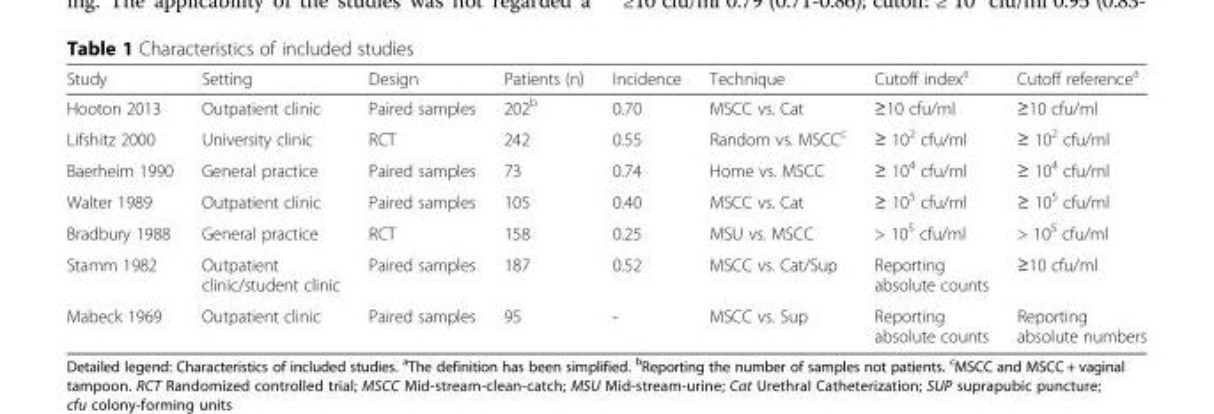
<table><thead><tr><td>Study</td><td>Setting</td><td>Design</td><td>Patients (n)</td><td>Incidence</td><td>Technique</td><td>Cutoff index<sup>a</sup></td><td>Cutoff reference<sup>a</sup></td></tr></thead><tbody><tr><td>Hooton 2013</td><td>Outpatient clinic</td><td>Paired samples</td><td>202<sup>b</sup></td><td>0.70</td><td>MSCC vs. Cat</td><td>≥10 cfu/ml</td><td>≥10 cfu/ml</td></tr><tr><td>Lifshitz 2000</td><td>University clinic</td><td>RCT</td><td>242</td><td>0.55</td><td>Random vs. MSCC<sup>c</sup></td><td>≥ 10<sup>2</sup> cfu/ml</td><td>≥ 10<sup>2</sup> cfu/ml</td></tr><tr><td>Baerheim 1990</td><td>General practice</td><td>Paired samples</td><td>73</td><td>0.74</td><td>Home vs. MSCC</td><td>≥ 10<sup>4</sup> cfu/ml</td><td>≥ 10<sup>4</sup> cfu/ml</td></tr><tr><td>Walter 1989</td><td>Outpatient clinic</td><td>Paired samples</td><td>105</td><td>0.40</td><td>MSCC vs. Cat</td><td>≥ 10<sup>5</sup> cfu/ml</td><td>≥ 10<sup>5</sup> cfu/ml</td></tr><tr><td>Bradbury 1988</td><td>General practice</td><td>RCT</td><td>158</td><td>0.25</td><td>MSU vs. MSCC</td><td>&gt; 10<sup>5</sup> cfu/ml</td><td>&gt; 10<sup>5</sup> cfu/ml</td></tr><tr><td>Stamm 1982</td><td>Outpatient clinic/student clinic</td><td>Paired samples</td><td>187</td><td>0.52</td><td>MSCC vs. Cat/Sup</td><td>Reporting absolute counts</td><td>≥10 cfu/ml</td></tr><tr><td>Mabeck 1969</td><td>Outpatient clinic</td><td>Paired samples</td><td>95</td><td>-</td><td>MSCC vs. Sup</td><td>Reporting absolute counts</td><td>Reporting absolute numbers</td></tr></tbody></table>